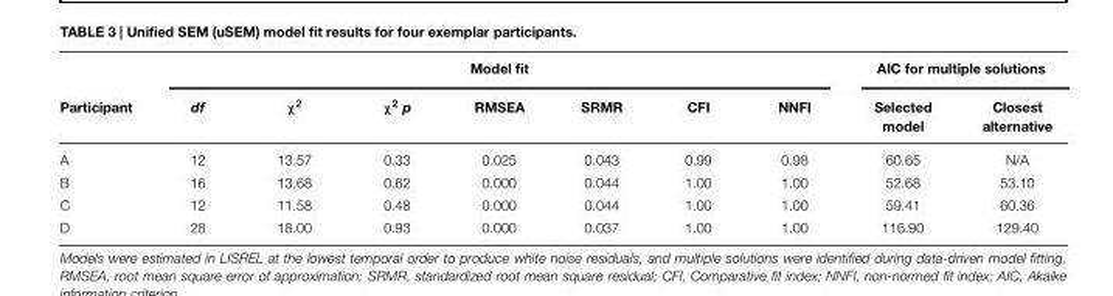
<table><thead><tr><td rowspan="2">Participant</td><td colspan="7">Model fit</td><td colspan="2">AIC for multiple solutions</td></tr><tr><td>df</td><td>χ<sup>2</sup></td><td>χ<sup>2</sup> p</td><td>RMSEA</td><td>SRMR</td><td>CFI</td><td>NNFI</td><td>Selected model</td><td>Closest alternative</td></tr></thead><tbody><tr><td>A</td><td>12</td><td>13.57</td><td>0.33</td><td>0.025</td><td>0.043</td><td>0.99</td><td>0.98</td><td>60.65</td><td>N/A</td></tr><tr><td>B</td><td>16</td><td>13.68</td><td>0.62</td><td>0.000</td><td>0.044</td><td>1.00</td><td>1.00</td><td>52.68</td><td>53.10</td></tr><tr><td>C</td><td>12</td><td>11.58</td><td>0.48</td><td>0.000</td><td>0.044</td><td>1.00</td><td>1.00</td><td>59.41</td><td>60.36</td></tr><tr><td>D</td><td>28</td><td>18.00</td><td>0.93</td><td>0.000</td><td>0.037</td><td>1.00</td><td>1.00</td><td>116.90</td><td>129.40</td></tr></tbody></table>